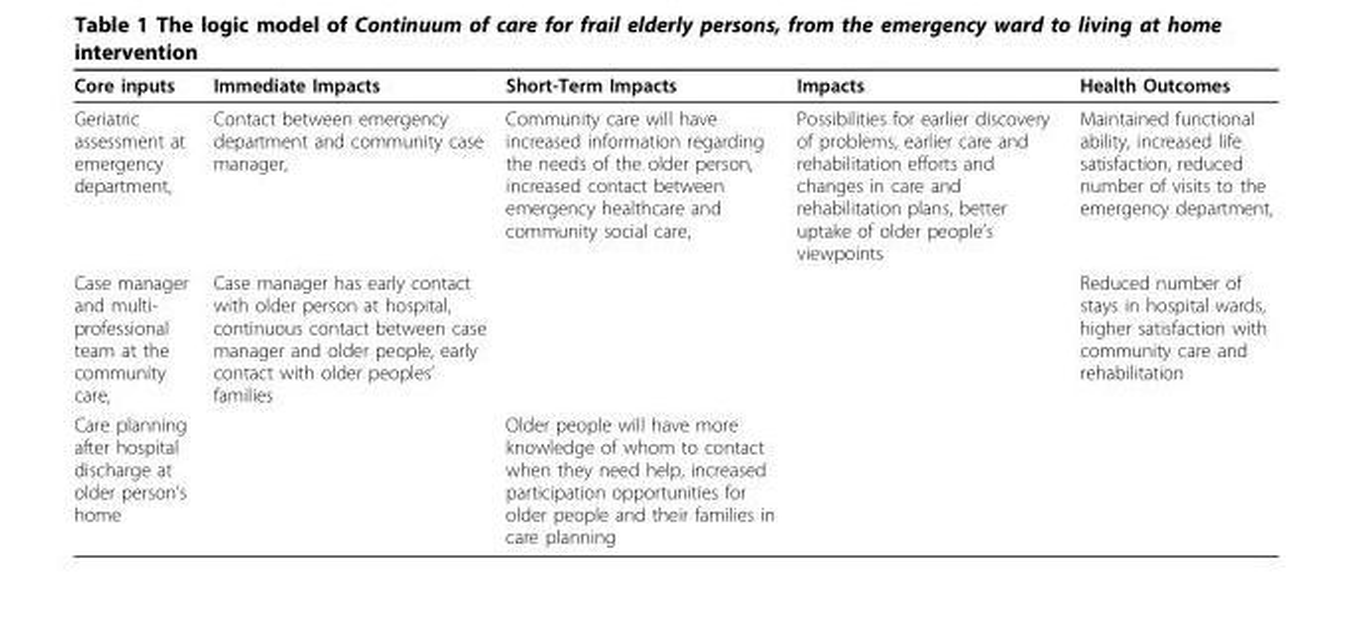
<table><thead><tr><td>Core inputs</td><td>Immediate Impacts</td><td>Short-Term Impacts</td><td>Impacts</td><td>Health Outcomes</td></tr></thead><tbody><tr><td>Geriatric assessment at emergency department,</td><td>Contact between emergency department and community case manager,</td><td>Community care will have increased information regarding the needs of the older person, increased contact between emergency healthcare and community social care,</td><td>Possibilities for earlier discovery of problems, earlier care and rehabilitation efforts and changes in care and rehabilitation plans, better uptake of older people’s viewpoints</td><td>Maintained functional ability, increased life satisfaction, reduced number of visits to the emergency department,</td></tr><tr><td>Case manager and multi- professional team at the community care,</td><td>Case manager has early contact with older person at hospital, continuous contact between case manager and older people, early contact with older peoples’ families</td><td></td><td></td><td>Reduced number of stays in hospital wards, higher satisfaction with community care and rehabilitation</td></tr><tr><td>Care planning after hospital discharge at older person’s home</td><td></td><td>Older people will have more knowledge of whom to contact when they need help, increased participation opportunities for older people and their families in care planning</td><td></td><td></td></tr></tbody></table>